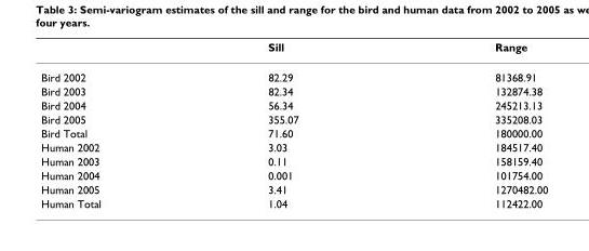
<table><thead><tr><td></td><td>Sill</td><td>Range</td></tr></thead><tbody><tr><td>Bird 2002</td><td>82.29</td><td>81368.91</td></tr><tr><td>Bird 2003</td><td>82.34</td><td>132874.38</td></tr><tr><td>Bird 2004</td><td>56.34</td><td>245213.13</td></tr><tr><td>Bird 2005</td><td>355.07</td><td>335208.03</td></tr><tr><td>Bird Total</td><td>71.60</td><td>180000.00</td></tr><tr><td>Human 2002</td><td>3.03</td><td>184517.40</td></tr><tr><td>Human 2003</td><td>0.11</td><td>158159.40</td></tr><tr><td>Human 2004</td><td>0.001</td><td>101754.00</td></tr><tr><td>Human 2005</td><td>3.41</td><td>1270482.00</td></tr><tr><td>Human Total</td><td>1.04</td><td>112422.00</td></tr></tbody></table>